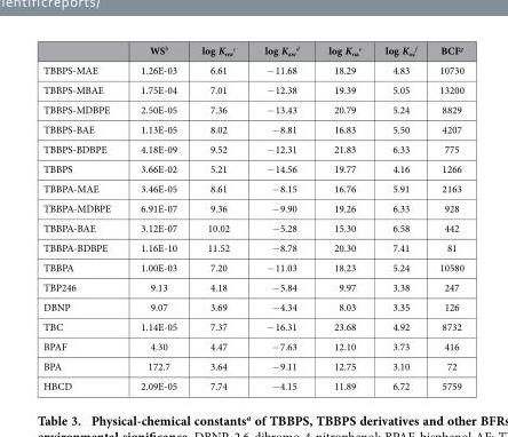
<table><thead><tr><td></td><td>WS<sup>b</sup></td><td>log K<sub>ow</sub> <sup>c</sup></td><td>log K<sub>aw</sub> <sup>d</sup></td><td>log K<sub>oa</sub> <sup>e</sup></td><td>log K<sub>oc</sub> <sup>f</sup></td><td>BCF<sup>g</sup></td></tr></thead><tbody><tr><td>TBBPS-MAE</td><td>1.26E-03</td><td>6.61</td><td>− 11.68</td><td>18.29</td><td>4.83</td><td>10730</td></tr><tr><td>TBBPS-MBAE</td><td>1.75E-04</td><td>7.01</td><td>− 12.38</td><td>19.39</td><td>5.05</td><td>13200</td></tr><tr><td>TBBPS-MDBPE</td><td>2.50E-05</td><td>7.36</td><td>− 13.43</td><td>20.79</td><td>5.24</td><td>8829</td></tr><tr><td>TBBPS-BAE</td><td>1.13E-05</td><td>8.02</td><td>− 8.81</td><td>16.83</td><td>5.50</td><td>4207</td></tr><tr><td>TBBPS-BDBPE</td><td>4.18E-09</td><td>9.52</td><td>− 12.31</td><td>21.83</td><td>6.33</td><td>775</td></tr><tr><td>TBBPS</td><td>3.66E-02</td><td>5.21</td><td>− 14.56</td><td>19.77</td><td>4.16</td><td>1266</td></tr><tr><td>TBBPA-MAE</td><td>3.46E-05</td><td>8.61</td><td>− 8.15</td><td>16.76</td><td>5.91</td><td>2163</td></tr><tr><td>TBBPA-MDBPE</td><td>6.91E-07</td><td>9.36</td><td>− 9.90</td><td>19.26</td><td>6.33</td><td>928</td></tr><tr><td>TBBPA-BAE</td><td>3.12E-07</td><td>10.02</td><td>− 5.28</td><td>15.30</td><td>6.58</td><td>442</td></tr><tr><td>TBBPA-BDBPE</td><td>1.16E-10</td><td>11.52</td><td>− 8.78</td><td>20.30</td><td>7.41</td><td>81</td></tr><tr><td>TBBPA</td><td>1.00E-03</td><td>7.20</td><td>− 11.03</td><td>18.23</td><td>5.24</td><td>10580</td></tr><tr><td>TBP246</td><td>9.13</td><td>4.18</td><td>− 5.84</td><td>9.97</td><td>3.38</td><td>247</td></tr><tr><td>DBNP</td><td>9.07</td><td>3.69</td><td>− 4.34</td><td>8.03</td><td>3.35</td><td>126</td></tr><tr><td>TBC</td><td>1.14E-05</td><td>7.37</td><td>− 16.31</td><td>23.68</td><td>4.92</td><td>8732</td></tr><tr><td>BPAF</td><td>4.30</td><td>4.47</td><td>− 7.63</td><td>12.10</td><td>3.73</td><td>416</td></tr><tr><td>BPA</td><td>172.7</td><td>3.64</td><td>− 9.11</td><td>12.75</td><td>3.10</td><td>72</td></tr><tr><td>HBCD</td><td>2.09E-05</td><td>7.74</td><td>− 4.15</td><td>11.89</td><td>6.72</td><td>5759</td></tr></tbody></table>